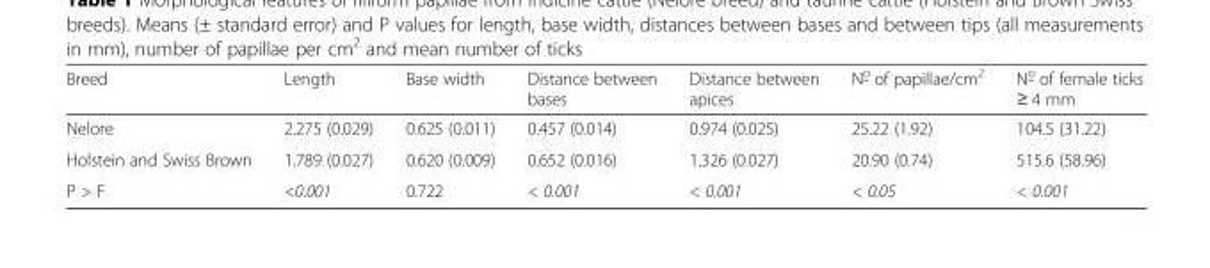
<table><thead><tr><td>Breed</td><td>Length</td><td>Base width</td><td>Distance between bases</td><td>Distance between apices</td><td>No� of papillae/cm2</td><td>No� of female ticks ≥ 4 mm</td></tr></thead><tbody><tr><td>Nelore</td><td>2.275 (0.029)</td><td>0.625 (0.011)</td><td>0.457 (0.014)</td><td>0.974 (0.025)</td><td>25.22 (1.92)</td><td>104.5 (31.22)</td></tr><tr><td>Holstein and Swiss Brown</td><td>1.789 (0.027)</td><td>0.620 (0.009)</td><td>0.652 (0.016)</td><td>1.326 (0.027)</td><td>20.90 (0.74)</td><td>515.6 (58.96)</td></tr><tr><td>P &gt; F</td><td>&lt;0.001</td><td>0.722</td><td>&lt; 0.001</td><td>&lt; 0.001</td><td>&lt; 0.05</td><td>&lt; 0.001</td></tr></tbody></table>